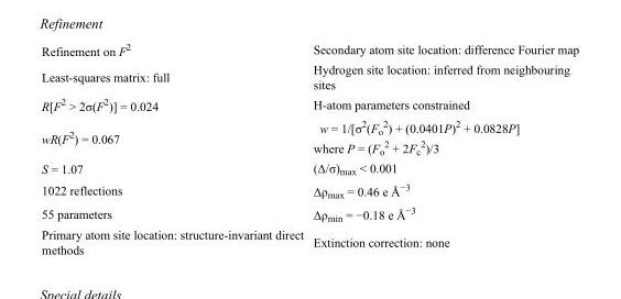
<table><tbody><tr><td>Refinement on F<sup>2</sup></td><td>Secondary atom site location: difference Fourier map</td></tr><tr><td>Least-squares matrix: full</td><td>Hydrogen site location: inferred from neighbouring sites</td></tr><tr><td>R[F<sup>2</sup> &gt; 2σ(F<sup>2</sup>)] = 0.024</td><td>H-atom parameters constrained</td></tr><tr><td>wR(F<sup>2</sup>) = 0.067</td><td>w = 1/[σ<sup>2</sup>(F<sub>o</sub> <sup>2</sup>) + (0.0401P)<sup>2</sup> + 0.0828P] where P = (F<sub>o</sub> <sup>2</sup> + 2F<sub>c</sub> <sup>2</sup>)/3</td></tr><tr><td>S = 1.07</td><td>(Δ/σ)<sub>max</sub> &lt; 0.001</td></tr><tr><td>1022 reflections</td><td>Δρ<sub>max</sub> = 0.46 e Å<sup>−3</sup></td></tr><tr><td>55 parameters</td><td>Δρ<sub>min</sub> = −0.18 e Å<sup>−3</sup></td></tr><tr><td>Primary atom site location: structure-invariant direct methods</td><td>Extinction correction: none</td></tr></tbody></table>